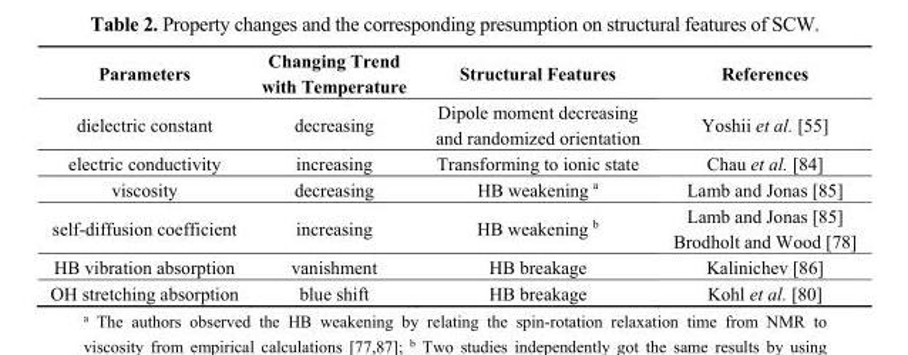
<table><thead><tr><td>Parameters</td><td>Changing Trend with Temperature</td><td>Structural Features</td><td>References</td></tr></thead><tbody><tr><td>dielectric constant</td><td>decreasing</td><td>Dipole moment decreasing and randomized orientation</td><td>Yoshii et al. [55]</td></tr><tr><td>electric conductivity</td><td>increasing</td><td>Transforming to ionic state</td><td>Chau et al. [84]</td></tr><tr><td>viscosity</td><td>decreasing</td><td>HB weakening <sup>a</sup></td><td>Lamb and Jonas [85]</td></tr><tr><td>self-diffusion coefficient</td><td>increasing</td><td>HB weakening <sup>b</sup></td><td>Lamb and Jonas [85] Brodholt and Wood [78]</td></tr><tr><td>HB vibration absorption</td><td>vanishment</td><td>HB breakage</td><td>Kalinichev [86]</td></tr><tr><td>OH stretching absorption</td><td>blue shift</td><td>HB breakage</td><td>Kohl et al. [80]</td></tr></tbody></table>